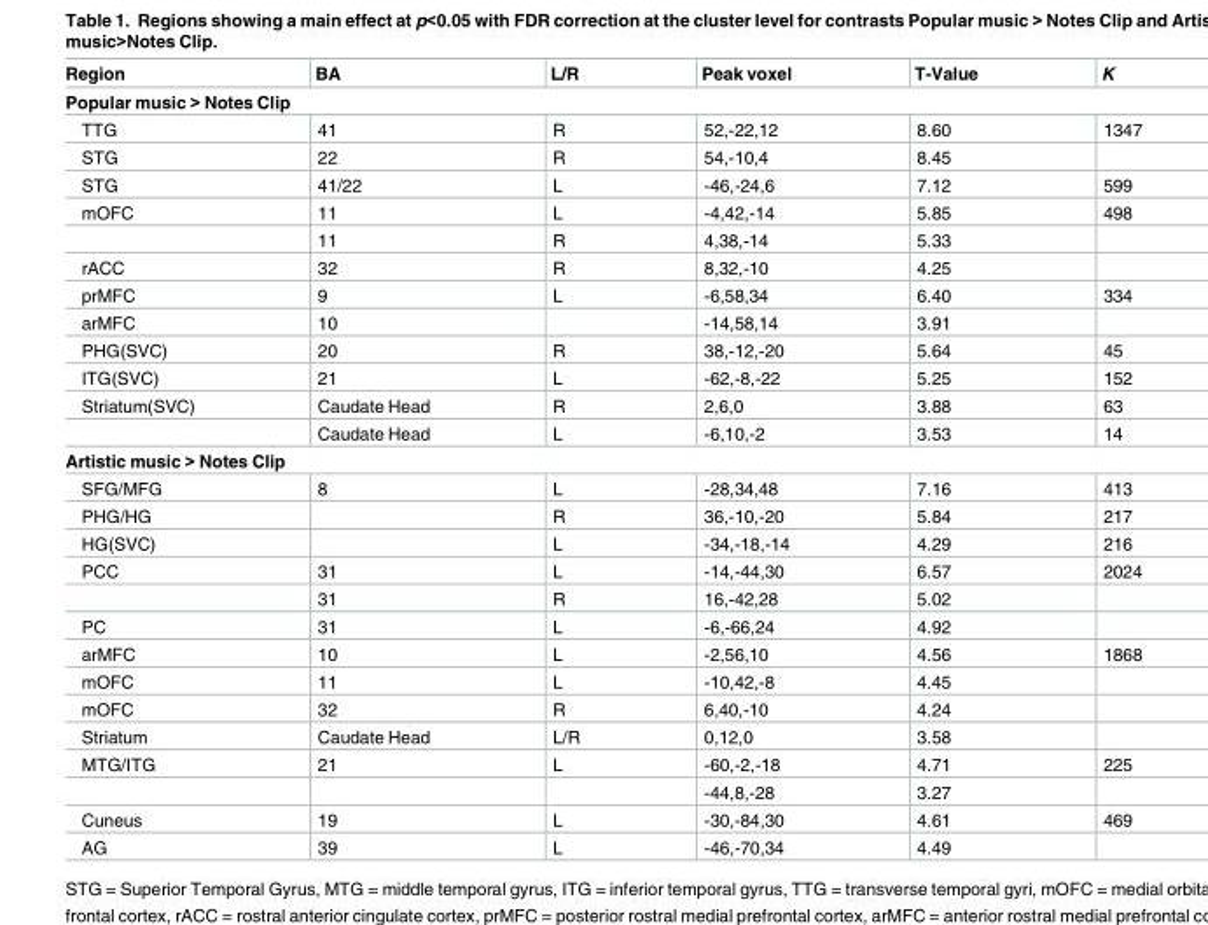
<table><thead><tr><td>Region</td><td>BA</td><td>L/R</td><td>Peak voxel</td><td>T-Value</td><td>K</td></tr></thead><tbody><tr><td colspan="6">Popular music &gt; Notes Clip</td></tr><tr><td>TTG</td><td>41</td><td>R</td><td>52,-22,12</td><td>8.60</td><td>1347</td></tr><tr><td>STG</td><td>22</td><td>R</td><td>54,-10,4</td><td>8.45</td><td></td></tr><tr><td>STG</td><td>41/22</td><td>L</td><td>-46,-24,6</td><td>7.12</td><td>599</td></tr><tr><td rowspan="2">mOFC</td><td>11</td><td>L</td><td>-4,42,-14</td><td>5.85</td><td>498</td></tr><tr><td>11</td><td>R</td><td>4,38,-14</td><td>5.33</td><td></td></tr><tr><td>rACC</td><td>32</td><td>R</td><td>8,32,-10</td><td>4.25</td><td></td></tr><tr><td>prMFC</td><td>9</td><td>L</td><td>-6,58,34</td><td>6.40</td><td>334</td></tr><tr><td>arMFC</td><td>10</td><td></td><td>-14,58,14</td><td>3.91</td><td></td></tr><tr><td>PHG(SVC)</td><td>20</td><td>R</td><td>38,-12,-20</td><td>5.64</td><td>45</td></tr><tr><td>ITG(SVC)</td><td>21</td><td>L</td><td>-62,-8,-22</td><td>5.25</td><td>152</td></tr><tr><td rowspan="2">Striatum(SVC)</td><td>Caudate Head</td><td>R</td><td>2,6,0</td><td>3.88</td><td>63</td></tr><tr><td>Caudate Head</td><td>L</td><td>-6,10,-2</td><td>3.53</td><td>14</td></tr><tr><td colspan="6">Artistic music &gt; Notes Clip</td></tr><tr><td>SFG/MFG</td><td>8</td><td>L</td><td>-28,34,48</td><td>7.16</td><td>413</td></tr><tr><td>PHG/HG</td><td></td><td>R</td><td>36,-10,-20</td><td>5.84</td><td>217</td></tr><tr><td>HG(SVC)</td><td></td><td>L</td><td>-34,-18,-14</td><td>4.29</td><td>216</td></tr><tr><td rowspan="2">PCC</td><td>31</td><td>L</td><td>-14,-44,30</td><td>6.57</td><td>2024</td></tr><tr><td>31</td><td>R</td><td>16,-42,28</td><td>5.02</td><td></td></tr><tr><td>PC</td><td>31</td><td>L</td><td>-6,-66,24</td><td>4.92</td><td></td></tr><tr><td>arMFC</td><td>10</td><td>L</td><td>-2,56,10</td><td>4.56</td><td>1868</td></tr><tr><td>mOFC</td><td>11</td><td>L</td><td>-10,42,-8</td><td>4.45</td><td></td></tr><tr><td>mOFC</td><td>32</td><td>R</td><td>6,40,-10</td><td>4.24</td><td></td></tr><tr><td>Striatum</td><td>Caudate Head</td><td>L/R</td><td>0,12,0</td><td>3.58</td><td></td></tr><tr><td rowspan="2">MTG/ITG</td><td>21</td><td>L</td><td>-60,-2,-18</td><td>4.71</td><td>225</td></tr><tr><td></td><td></td><td>-44,8,-28</td><td>3.27</td><td></td></tr><tr><td>Cuneus</td><td>19</td><td>L</td><td>-30,-84,30</td><td>4.61</td><td>469</td></tr><tr><td>AG</td><td>39</td><td>L</td><td>-46,-70,34</td><td>4.49</td><td></td></tr></tbody></table>